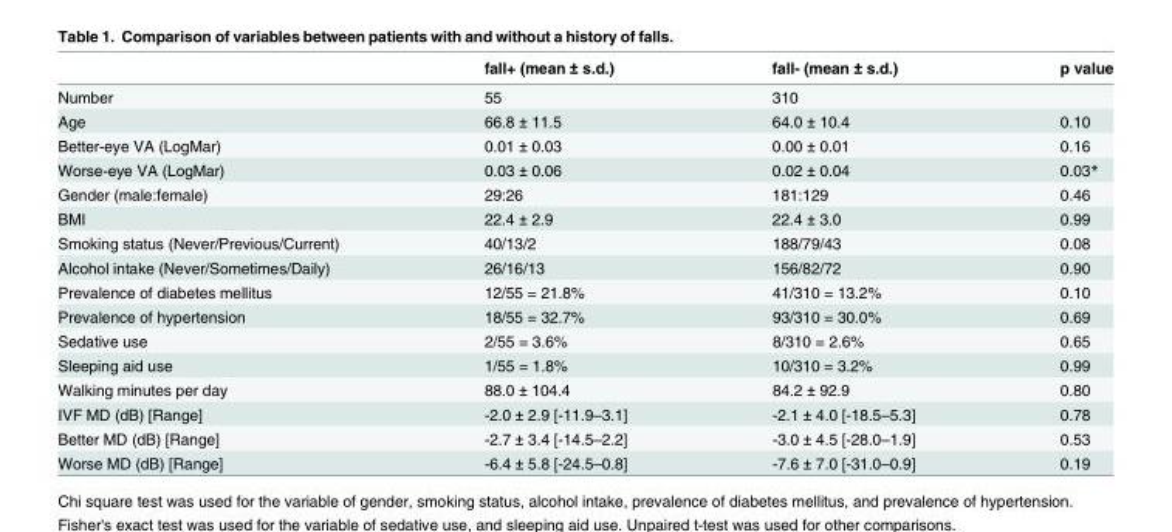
<table><thead><tr><td></td><td>fall+ (mean ± s.d.)</td><td>fall- (mean ± s.d.)</td><td>p value</td></tr></thead><tbody><tr><td>Number</td><td>55</td><td>310</td><td></td></tr><tr><td>Age</td><td>66.8 ± 11.5</td><td>64.0 ± 10.4</td><td>0.10</td></tr><tr><td>Better-eye VA (LogMar)</td><td>0.01 ± 0.03</td><td>0.00 ± 0.01</td><td>0.16</td></tr><tr><td>Worse-eye VA (LogMar)</td><td>0.03 ± 0.06</td><td>0.02 ± 0.04</td><td>0.03*</td></tr><tr><td>Gender (male:female)</td><td>29:26</td><td>181:129</td><td>0.46</td></tr><tr><td>BMI</td><td>22.4 ± 2.9</td><td>22.4 ± 3.0</td><td>0.99</td></tr><tr><td>Smoking status (Never/Previous/Current)</td><td>40/13/2</td><td>188/79/43</td><td>0.08</td></tr><tr><td>Alcohol intake (Never/Sometimes/Daily)</td><td>26/16/13</td><td>156/82/72</td><td>0.90</td></tr><tr><td>Prevalence of diabetes mellitus</td><td>12/55 = 21.8%</td><td>41/310 = 13.2%</td><td>0.10</td></tr><tr><td>Prevalence of hypertension</td><td>18/55 = 32.7%</td><td>93/310 = 30.0%</td><td>0.69</td></tr><tr><td>Sedative use</td><td>2/55 = 3.6%</td><td>8/310 = 2.6%</td><td>0.65</td></tr><tr><td>Sleeping aid use</td><td>1/55 = 1.8%</td><td>10/310 = 3.2%</td><td>0.99</td></tr><tr><td>Walking minutes per day</td><td>88.0 ± 104.4</td><td>84.2 ± 92.9</td><td>0.80</td></tr><tr><td>IVF MD (dB) [Range]</td><td>-2.0 ± 2.9 [-11.9–3.1]</td><td>-2.1 ± 4.0 [-18.5–5.3]</td><td>0.78</td></tr><tr><td>Better MD (dB) [Range]</td><td>-2.7 ± 3.4 [-14.5–2.2]</td><td>-3.0 ± 4.5 [-28.0–1.9]</td><td>0.53</td></tr><tr><td>Worse MD (dB) [Range]</td><td>-6.4 ± 5.8 [-24.5–0.8]</td><td>-7.6 ± 7.0 [-31.0–0.9]</td><td>0.19</td></tr></tbody></table>